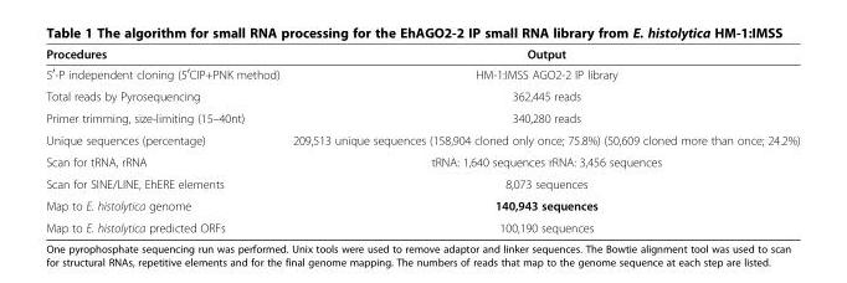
<table><thead><tr><td>Procedures</td><td>Output</td></tr></thead><tbody><tr><td>5<sup>′</sup>-P independent cloning (5<sup>′</sup>CIP+PNK method)</td><td>HM-1:IMSS AGO2-2 IP library</td></tr><tr><td>Total reads by Pyrosequencing</td><td>362,445 reads</td></tr><tr><td>Primer trimming, size-limiting (15–40nt)</td><td>340,280 reads</td></tr><tr><td>Unique sequences (percentage)</td><td>209,513 unique sequences (158,904 cloned only once; 75.8%) (50,609 cloned more than once; 24.2%)</td></tr><tr><td>Scan for tRNA, rRNA</td><td>tRNA: 1,640 sequences rRNA: 3,456 sequences</td></tr><tr><td>Scan for SINE/LINE, EhERE elements</td><td>8,073 sequences</td></tr><tr><td>Map to E. histolytica genome</td><td>140,943 sequences</td></tr><tr><td>Map to E. histolytica predicted ORFs</td><td>100,190 sequences</td></tr></tbody></table>